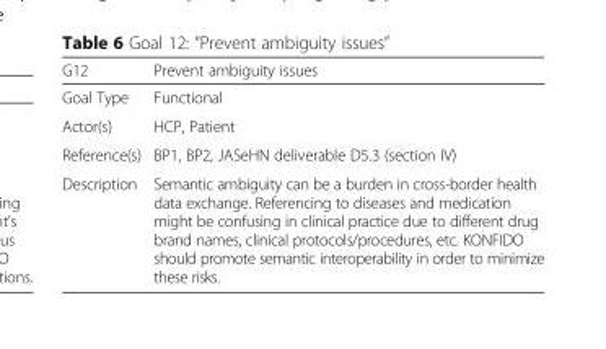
<table><thead><tr><td>G12</td><td>Prevent ambiguity issues</td></tr></thead><tbody><tr><td>Goal Type</td><td>Functional</td></tr><tr><td>Actor(s)</td><td>HCP, Patient</td></tr><tr><td>Reference(s)</td><td>BP1, BP2, JASeHN deliverable D5.3 (section IV)</td></tr><tr><td>Description</td><td>Semantic ambiguity can be a burden in cross-border health data exchange. Referencing to diseases and medication might be confusing in clinical practice due to different drug brand names, clinical protocols/procedures, etc. KONFIDO should promote semantic interoperability in order to minimize these risks.</td></tr></tbody></table>